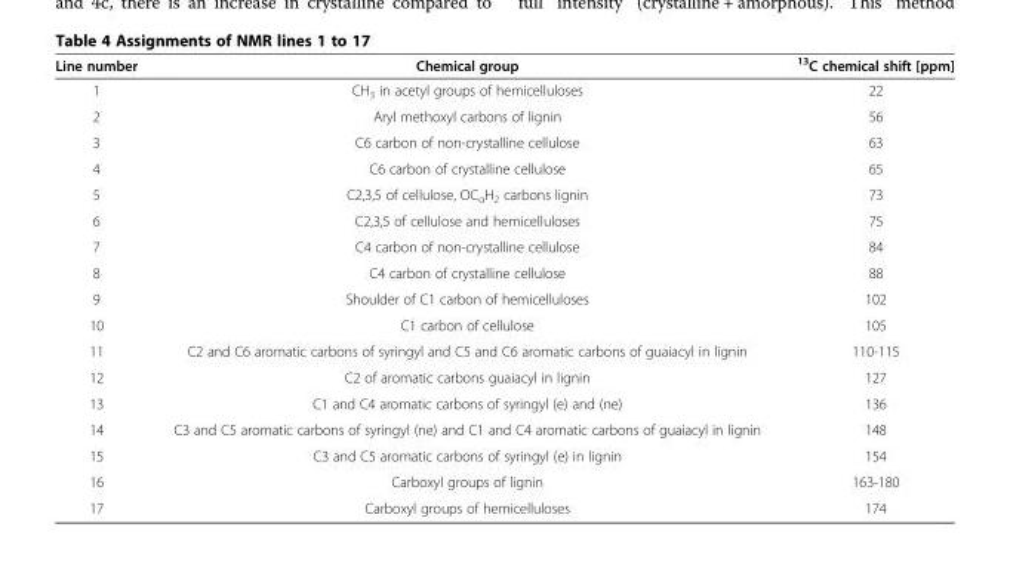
<table><thead><tr><td>Line number</td><td>Chemical group</td><td><sup>13</sup>C chemical shift [ppm]</td></tr></thead><tbody><tr><td>1</td><td>CH<sub>3</sub> in acetyl groups of hemicelluloses</td><td>22</td></tr><tr><td>2</td><td>Aryl methoxyl carbons of lignin</td><td>56</td></tr><tr><td>3</td><td>C6 carbon of non-crystalline cellulose</td><td>63</td></tr><tr><td>4</td><td>C6 carbon of crystalline cellulose</td><td>65</td></tr><tr><td>5</td><td>C2,3,5 of cellulose, OC<sub>α</sub>H<sub>2</sub> carbons lignin</td><td>73</td></tr><tr><td>6</td><td>C2,3,5 of cellulose and hemicelluloses</td><td>75</td></tr><tr><td>7</td><td>C4 carbon of non-crystalline cellulose</td><td>84</td></tr><tr><td>8</td><td>C4 carbon of crystalline cellulose</td><td>88</td></tr><tr><td>9</td><td>Shoulder of C1 carbon of hemicelluloses</td><td>102</td></tr><tr><td>10</td><td>C1 carbon of cellulose</td><td>105</td></tr><tr><td>11</td><td>C2 and C6 aromatic carbons of syringyl and C5 and C6 aromatic carbons of guaiacyl in lignin</td><td>110-115</td></tr><tr><td>12</td><td>C2 of aromatic carbons guaiacyl in lignin</td><td>127</td></tr><tr><td>13</td><td>C1 and C4 aromatic carbons of syringyl (e) and (ne)</td><td>136</td></tr><tr><td>14</td><td>C3 and C5 aromatic carbons of syringyl (ne) and C1 and C4 aromatic carbons of guaiacyl in lignin</td><td>148</td></tr><tr><td>15</td><td>C3 and C5 aromatic carbons of syringyl (e) in lignin</td><td>154</td></tr><tr><td>16</td><td>Carboxyl groups of lignin</td><td>163-180</td></tr><tr><td>17</td><td>Carboxyl groups of hemicelluloses</td><td>174</td></tr></tbody></table>